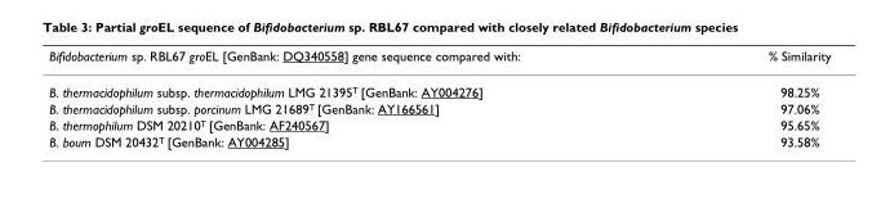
<table><thead><tr><td>Bifidobacterium sp. RBL67 groEL [GenBank: DQ340558] gene sequence compared with:</td><td>% Similarity</td></tr></thead><tbody><tr><td>B. thermacidophilum subsp. thermacidophilum LMG 21395<sup>T</sup> [GenBank: AY004276]</td><td>98.25%</td></tr><tr><td>B. thermacidophilum subsp. porcinum LMG 21689<sup>T</sup> [GenBank: AY166561]</td><td>97.06%</td></tr><tr><td>B. thermophilum DSM 20210<sup>T</sup> [GenBank: AF240567]</td><td>95.65%</td></tr><tr><td>B. boum DSM 20432<sup>T</sup> [GenBank: AY004285]</td><td>93.58%</td></tr></tbody></table>